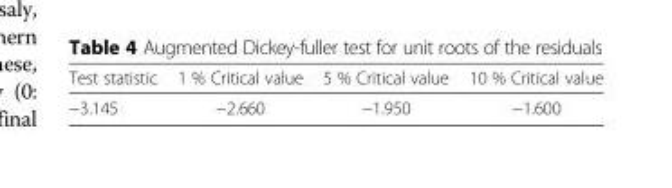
<table><thead><tr><td>Test statistic</td><td>1 % Critical value</td><td>5 % Critical value</td><td>10 % Critical value</td></tr></thead><tbody><tr><td>−3.145</td><td>−2.660</td><td>−1.950</td><td>−1.600</td></tr></tbody></table>